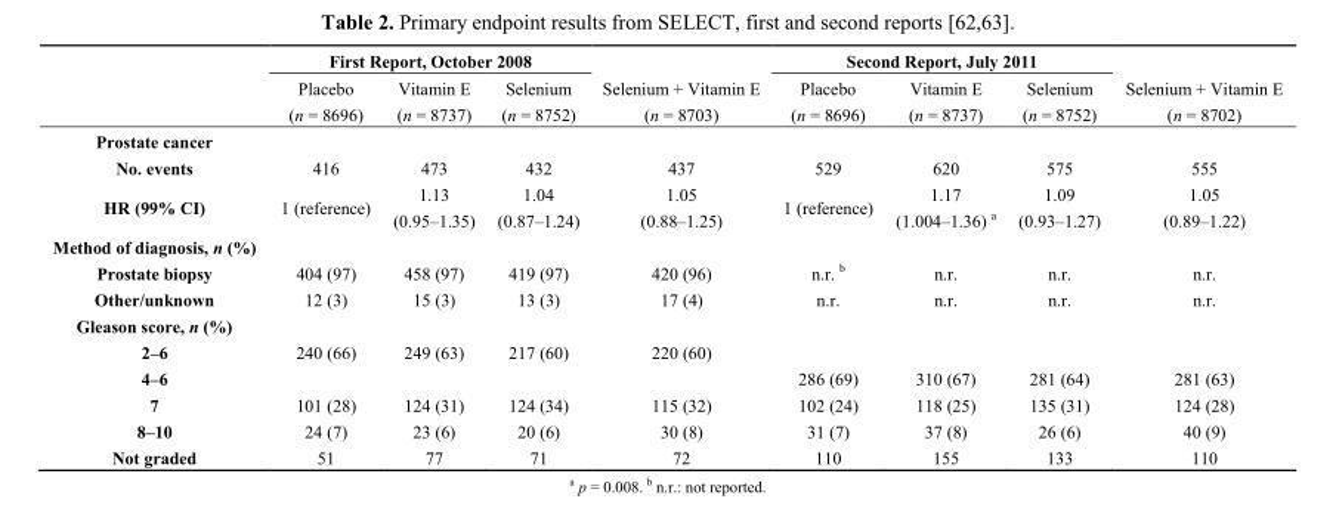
<table><thead><tr><td rowspan="2"></td><td colspan="3">First Report, October 2008</td><td rowspan="2">Selenium + Vitamin E (n = 8703)</td><td colspan="3">Second Report, July 2011</td><td rowspan="2">Selenium + Vitamin E (n = 8702)</td></tr><tr><td>Placebo (n = 8696)</td><td>Vitamin E (n = 8737)</td><td>Selenium (n = 8752)</td><td>Placebo (n = 8696)</td><td>Vitamin E (n = 8737)</td><td>Selenium (n = 8752)</td></tr></thead><tbody><tr><td colspan="9">Prostate cancer</td></tr><tr><td>No. events</td><td>416</td><td>473</td><td>432</td><td>437</td><td>529</td><td>620</td><td>575</td><td>555</td></tr><tr><td>HR (99% CI)</td><td>1 (reference)</td><td>1.13 (0.95–1.35)</td><td>1.04 (0.87–1.24)</td><td>1.05 (0.88–1.25)</td><td>1 (reference)</td><td>1.17 (1.004–1.36) <sup>a</sup></td><td>1.09 (0.93–1.27)</td><td>1.05 (0.89–1.22)</td></tr><tr><td colspan="9">Method of diagnosis, n (%)</td></tr><tr><td>Prostate biopsy</td><td>404 (97)</td><td>458 (97)</td><td>419 (97)</td><td>420 (96)</td><td>n.r. <sup>b</sup></td><td>n.r.</td><td>n.r.</td><td>n.r.</td></tr><tr><td>Other/unknown</td><td>12 (3)</td><td>15 (3)</td><td>13 (3)</td><td>17 (4)</td><td>n.r.</td><td>n.r.</td><td>n.r.</td><td>n.r.</td></tr><tr><td colspan="9">Gleason score, n (%)</td></tr><tr><td>2–6</td><td>240 (66)</td><td>249 (63)</td><td>217 (60)</td><td>220 (60)</td><td></td><td></td><td></td><td></td></tr><tr><td>4–6</td><td></td><td></td><td></td><td></td><td>286 (69)</td><td>310 (67)</td><td>281 (64)</td><td>281 (63)</td></tr><tr><td>7</td><td>101 (28)</td><td>124 (31)</td><td>124 (34)</td><td>115 (32)</td><td>102 (24)</td><td>118 (25)</td><td>135 (31)</td><td>124 (28)</td></tr><tr><td>8–10</td><td>24 (7)</td><td>23 (6)</td><td>20 (6)</td><td>30 (8)</td><td>31 (7)</td><td>37 (8)</td><td>26 (6)</td><td>40 (9)</td></tr><tr><td>Not graded</td><td>51</td><td>77</td><td>71</td><td>72</td><td>110</td><td>155</td><td>133</td><td>110</td></tr></tbody></table>